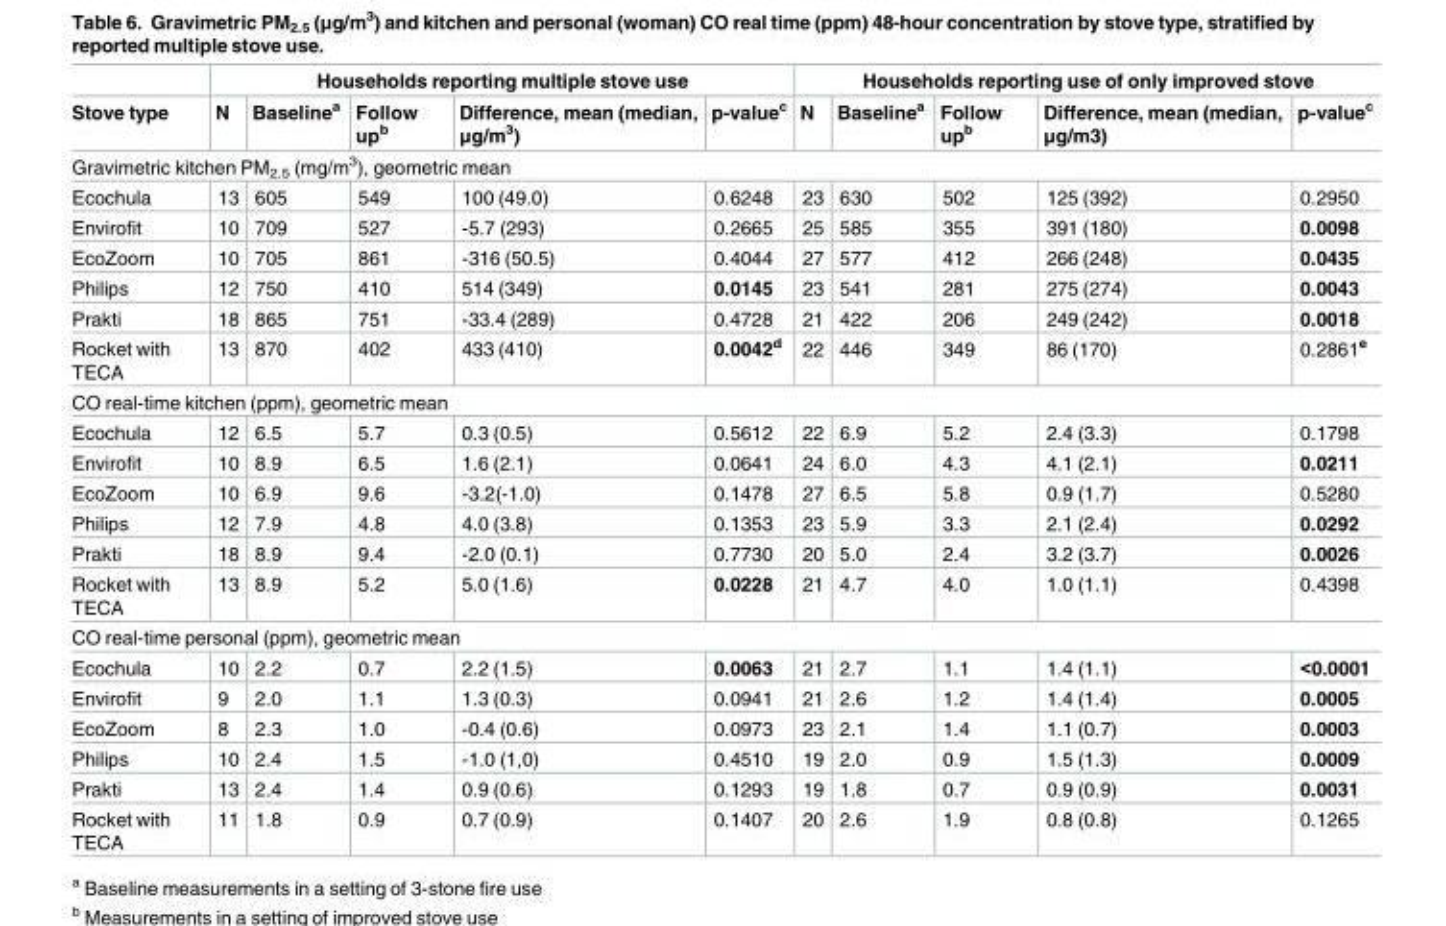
<table><thead><tr><td rowspan="2">Stove type</td><td colspan="5">Households reporting multiple stove use</td><td colspan="5">Households reporting use of only improved stove</td></tr><tr><td>N</td><td>Baseline<sup>a</sup></td><td>Follow up<sup>b</sup></td><td>Difference, mean (median, μg/m<sup>3</sup>)</td><td>p-value<sup>c</sup></td><td>N</td><td>Baseline<sup>a</sup></td><td>Follow up<sup>b</sup></td><td>Difference, mean (median, μg/m3)</td><td>p-value<sup>c</sup></td></tr></thead><tbody><tr><td colspan="11">Gravimetric kitchen PM<sub>2.5</sub> (mg/m<sup>3</sup>), geometric mean</td></tr><tr><td>Ecochula</td><td>13</td><td>605</td><td>549</td><td>100 (49.0)</td><td>0.6248</td><td>23</td><td>630</td><td>502</td><td>125 (392)</td><td>0.2950</td></tr><tr><td>Envirofit</td><td>10</td><td>709</td><td>527</td><td>-5.7 (293)</td><td>0.2665</td><td>25</td><td>585</td><td>355</td><td>391 (180)</td><td>0.0098</td></tr><tr><td>EcoZoom</td><td>10</td><td>705</td><td>861</td><td>-316 (50.5)</td><td>0.4044</td><td>27</td><td>577</td><td>412</td><td>266 (248)</td><td>0.0435</td></tr><tr><td>Philips</td><td>12</td><td>750</td><td>410</td><td>514 (349)</td><td>0.0145</td><td>23</td><td>541</td><td>281</td><td>275 (274)</td><td>0.0043</td></tr><tr><td>Prakti</td><td>18</td><td>865</td><td>751</td><td>-33.4 (289)</td><td>0.4728</td><td>21</td><td>422</td><td>206</td><td>249 (242)</td><td>0.0018</td></tr><tr><td>Rocket with TECA</td><td>13</td><td>870</td><td>402</td><td>433 (410)</td><td>0.0042<sup>d</sup></td><td>22</td><td>446</td><td>349</td><td>86 (170)</td><td>0.2861<sup>e</sup></td></tr><tr><td colspan="11">CO real-time kitchen (ppm), geometric mean</td></tr><tr><td>Ecochula</td><td>12</td><td>6.5</td><td>5.7</td><td>0.3 (0.5)</td><td>0.5612</td><td>22</td><td>6.9</td><td>5.2</td><td>2.4 (3.3)</td><td>0.1798</td></tr><tr><td>Envirofit</td><td>10</td><td>8.9</td><td>6.5</td><td>1.6 (2.1)</td><td>0.0641</td><td>24</td><td>6.0</td><td>4.3</td><td>4.1 (2.1)</td><td>0.0211</td></tr><tr><td>EcoZoom</td><td>10</td><td>6.9</td><td>9.6</td><td>-3.2(-1.0)</td><td>0.1478</td><td>27</td><td>6.5</td><td>5.8</td><td>0.9 (1.7)</td><td>0.5280</td></tr><tr><td>Philips</td><td>12</td><td>7.9</td><td>4.8</td><td>4.0 (3.8)</td><td>0.1353</td><td>23</td><td>5.9</td><td>3.3</td><td>2.1 (2.4)</td><td>0.0292</td></tr><tr><td>Prakti</td><td>18</td><td>8.9</td><td>9.4</td><td>-2.0 (0.1)</td><td>0.7730</td><td>20</td><td>5.0</td><td>2.4</td><td>3.2 (3.7)</td><td>0.0026</td></tr><tr><td>Rocket with TECA</td><td>13</td><td>8.9</td><td>5.2</td><td>5.0 (1.6)</td><td>0.0228</td><td>21</td><td>4.7</td><td>4.0</td><td>1.0 (1.1)</td><td>0.4398</td></tr><tr><td colspan="11">CO real-time personal (ppm), geometric mean</td></tr><tr><td>Ecochula</td><td>10</td><td>2.2</td><td>0.7</td><td>2.2 (1.5)</td><td>0.0063</td><td>21</td><td>2.7</td><td>1.1</td><td>1.4 (1.1)</td><td>&lt;0.0001</td></tr><tr><td>Envirofit</td><td>9</td><td>2.0</td><td>1.1</td><td>1.3 (0.3)</td><td>0.0941</td><td>21</td><td>2.6</td><td>1.2</td><td>1.4 (1.4)</td><td>0.0005</td></tr><tr><td>EcoZoom</td><td>8</td><td>2.3</td><td>1.0</td><td>-0.4 (0.6)</td><td>0.0973</td><td>23</td><td>2.1</td><td>1.4</td><td>1.1 (0.7)</td><td>0.0003</td></tr><tr><td>Philips</td><td>10</td><td>2.4</td><td>1.5</td><td>-1.0 (1,0)</td><td>0.4510</td><td>19</td><td>2.0</td><td>0.9</td><td>1.5 (1.3)</td><td>0.0009</td></tr><tr><td>Prakti</td><td>13</td><td>2.4</td><td>1.4</td><td>0.9 (0.6)</td><td>0.1293</td><td>19</td><td>1.8</td><td>0.7</td><td>0.9 (0.9)</td><td>0.0031</td></tr><tr><td>Rocket with TECA</td><td>11</td><td>1.8</td><td>0.9</td><td>0.7 (0.9)</td><td>0.1407</td><td>20</td><td>2.6</td><td>1.9</td><td>0.8 (0.8)</td><td>0.1265</td></tr></tbody></table>